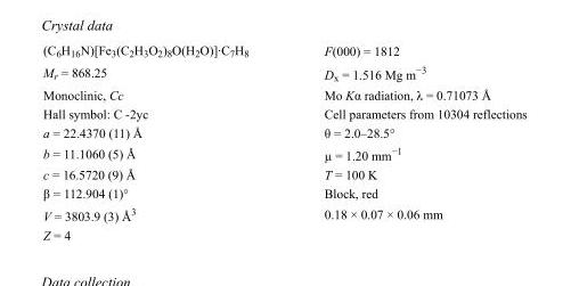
<table><tbody><tr><td>(C<sub>6</sub>H<sub>16</sub>N)[Fe<sub>3</sub>(C<sub>2</sub>H<sub>3</sub>O<sub>2</sub>)<sub>8</sub>O(H<sub>2</sub>O)]·C<sub>7</sub>H<sub>8</sub></td><td>F(000) = 1812</td></tr><tr><td>M<sub>r</sub> = 868.25</td><td>D<sub>x</sub> = 1.516 Mg m<sup>−3</sup></td></tr><tr><td>Monoclinic, Cc</td><td>Mo Kα radiation, λ = 0.71073 Å</td></tr><tr><td>Hall symbol: C -2yc</td><td>Cell parameters from 10304 reflections</td></tr><tr><td>a = 22.4370 (11) Å</td><td>θ = 2.0–28.5°</td></tr><tr><td>b = 11.1060 (5) Å</td><td>µ = 1.20 mm<sup>−1</sup></td></tr><tr><td>c = 16.5720 (9) Å</td><td>T = 100 K</td></tr><tr><td>β = 112.904 (1)°</td><td>Block, red</td></tr><tr><td>V = 3803.9 (3) Å<sup>3</sup></td><td>0.18 × 0.07 × 0.06 mm</td></tr><tr><td>Z = 4</td><td></td></tr></tbody></table>